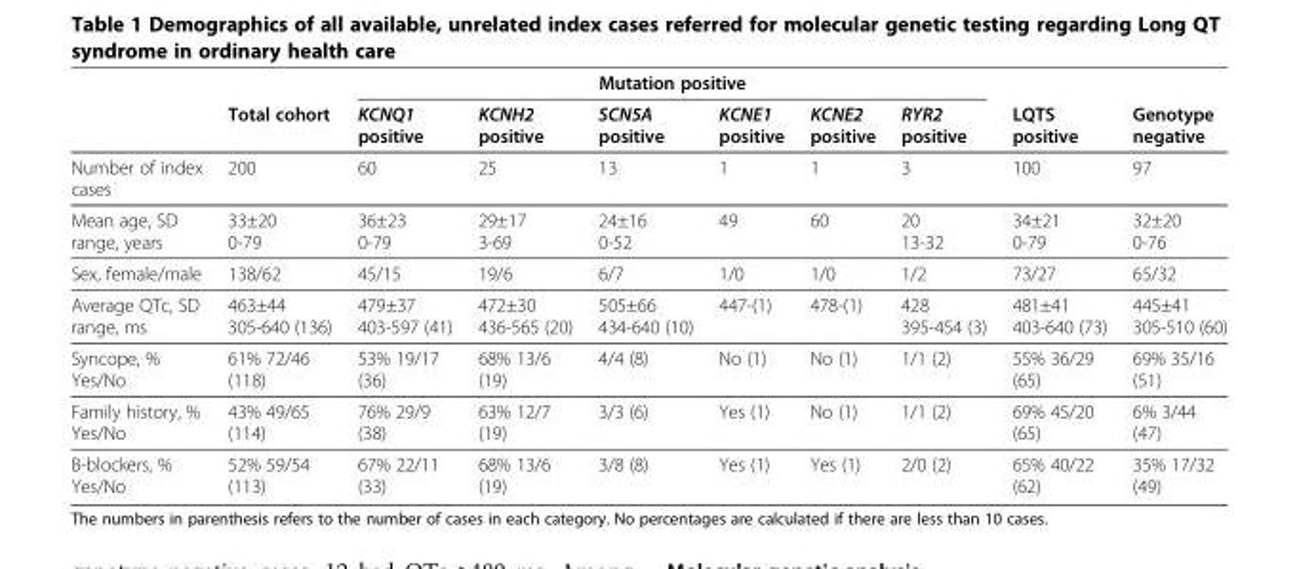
<table><thead><tr><td rowspan="2"></td><td rowspan="2">Total cohort</td><td colspan="6">Mutation positive</td><td rowspan="2">LQTS positive</td><td rowspan="2">Genotype negative</td></tr><tr><td>KCNQ1 positive</td><td>KCNH2 positive</td><td>SCN5A positive</td><td>KCNE1 positive</td><td>KCNE2 positive</td><td>RYR2 positive</td></tr></thead><tbody><tr><td>Number of index cases</td><td>200</td><td>60</td><td>25</td><td>13</td><td>1</td><td>1</td><td>3</td><td>100</td><td>97</td></tr><tr><td>Mean age, SD range, years</td><td>33±20 0-79</td><td>36±23 0-79</td><td>29±17 3-69</td><td>24±16 0-52</td><td>49</td><td>60</td><td>20 13-32</td><td>34±21 0-79</td><td>32±20 0-76</td></tr><tr><td>Sex, female/male</td><td>138/62</td><td>45/15</td><td>19/6</td><td>6/7</td><td>1/0</td><td>1/0</td><td>1/2</td><td>73/27</td><td>65/32</td></tr><tr><td>Average QTc, SD range, ms</td><td>463±44 305-640 (136)</td><td>479±37 403-597 (41)</td><td>472±30 436-565 (20)</td><td>505±66 434-640 (10)</td><td>447-(1)</td><td>478-(1)</td><td>428 395-454 (3)</td><td>481±41 403-640 (73)</td><td>445±41 305-510 (60)</td></tr><tr><td>Syncope, % Yes/No</td><td>61% 72/46 (118)</td><td>53% 19/17 (36)</td><td>68% 13/6 (19)</td><td>4/4 (8)</td><td>No (1)</td><td>No (1)</td><td>1/1 (2)</td><td>55% 36/29 (65)</td><td>69% 35/16 (51)</td></tr><tr><td>Family history, % Yes/No</td><td>43% 49/65 (114)</td><td>76% 29/9 (38)</td><td>63% 12/7 (19)</td><td>3/3 (6)</td><td>Yes (1)</td><td>No (1)</td><td>1/1 (2)</td><td>69% 45/20 (65)</td><td>6% 3/44 (47)</td></tr><tr><td>Β-blockers, % Yes/No</td><td>52% 59/54 (113)</td><td>67% 22/11 (33)</td><td>68% 13/6 (19)</td><td>3/8 (8)</td><td>Yes (1)</td><td>Yes (1)</td><td>2/0 (2)</td><td>65% 40/22 (62)</td><td>35% 17/32 (49)</td></tr></tbody></table>